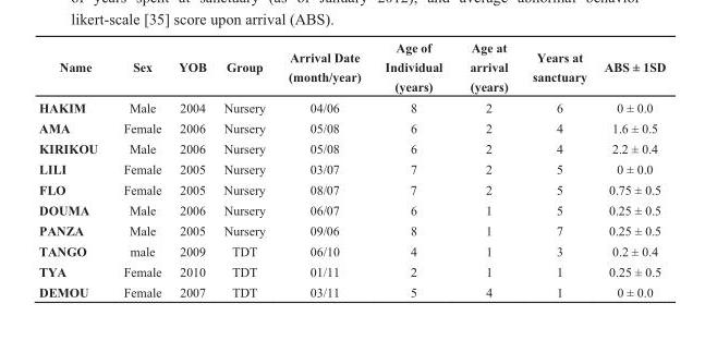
<table><thead><tr><td>Name</td><td>Sex</td><td>YOB</td><td>Group</td><td>Arrival Date (month/year)</td><td>Age of Individual (years)</td><td>Age at arrival (years)</td><td>Years at sanctuary</td><td>ABS ± 1SD</td></tr></thead><tbody><tr><td>HAKIM</td><td>Male</td><td>2004</td><td>Nursery</td><td>04/06</td><td>8</td><td>2</td><td>6</td><td>0 ± 0.0</td></tr><tr><td>AMA</td><td>Female</td><td>2006</td><td>Nursery</td><td>05/08</td><td>6</td><td>2</td><td>4</td><td>1.6 ± 0.5</td></tr><tr><td>KIRIKOU</td><td>Male</td><td>2006</td><td>Nursery</td><td>05/08</td><td>6</td><td>2</td><td>4</td><td>2.2 ± 0.4</td></tr><tr><td>LILI</td><td>Female</td><td>2005</td><td>Nursery</td><td>03/07</td><td>7</td><td>2</td><td>5</td><td>0 ± 0.0</td></tr><tr><td>FLO</td><td>Female</td><td>2005</td><td>Nursery</td><td>08/07</td><td>7</td><td>2</td><td>5</td><td>0.75 ± 0.5</td></tr><tr><td>DOUMA</td><td>Male</td><td>2006</td><td>Nursery</td><td>06/07</td><td>6</td><td>1</td><td>5</td><td>0.25 ± 0.5</td></tr><tr><td>PANZA</td><td>Male</td><td>2005</td><td>Nursery</td><td>09/06</td><td>8</td><td>1</td><td>7</td><td>0.25 ± 0.5</td></tr><tr><td>TANGO</td><td>male</td><td>2009</td><td>TDT</td><td>06/10</td><td>4</td><td>1</td><td>3</td><td>0.2 ± 0.4</td></tr><tr><td>TYA</td><td>Female</td><td>2010</td><td>TDT</td><td>01/11</td><td>2</td><td>1</td><td>1</td><td>0.25 ± 0.5</td></tr><tr><td>DEMOU</td><td>Female</td><td>2007</td><td>TDT</td><td>03/11</td><td>5</td><td>4</td><td>1</td><td>0 ± 0.0</td></tr></tbody></table>